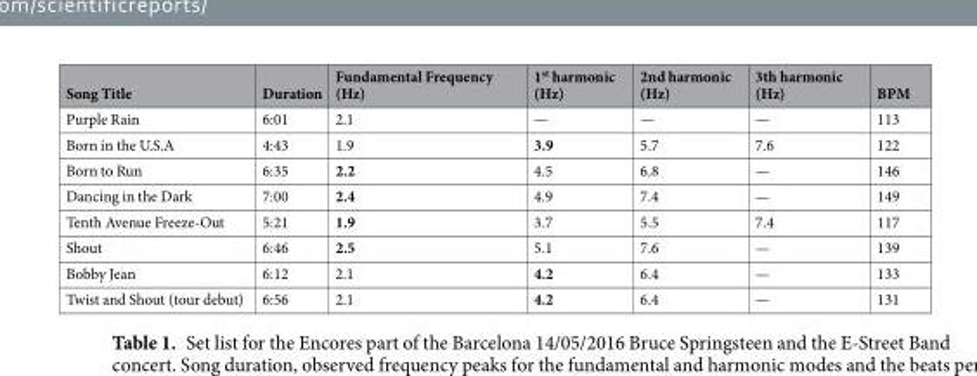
<table><thead><tr><td>Song Title</td><td>Duration</td><td>Fundamental Frequency (Hz)</td><td>1<sup>st</sup> harmonic (Hz)</td><td>2nd harmonic (Hz)</td><td>3th harmonic (Hz)</td><td>BPM</td></tr></thead><tbody><tr><td>Purple Rain</td><td>6:01</td><td>2.1</td><td>—</td><td>—</td><td>—</td><td>113</td></tr><tr><td>Born in the U.S.A</td><td>4:43</td><td>1.9</td><td>3.9</td><td>5.7</td><td>7.6</td><td>122</td></tr><tr><td>Born to Run</td><td>6:35</td><td>2.2</td><td>4.5</td><td>6.8</td><td>—</td><td>146</td></tr><tr><td>Dancing in the Dark</td><td>7:00</td><td>2.4</td><td>4.9</td><td>7.4</td><td>—</td><td>149</td></tr><tr><td>Tenth Avenue Freeze-Out</td><td>5:21</td><td>1.9</td><td>3.7</td><td>5.5</td><td>7.4</td><td>117</td></tr><tr><td>Shout</td><td>6:46</td><td>2.5</td><td>5.1</td><td>7.6</td><td>—</td><td>139</td></tr><tr><td>Bobby Jean</td><td>6:12</td><td>2.1</td><td>4.2</td><td>6.4</td><td>—</td><td>133</td></tr><tr><td>Twist and Shout (tour debut)</td><td>6:56</td><td>2.1</td><td>4.2</td><td>6.4</td><td>—</td><td>131</td></tr></tbody></table>